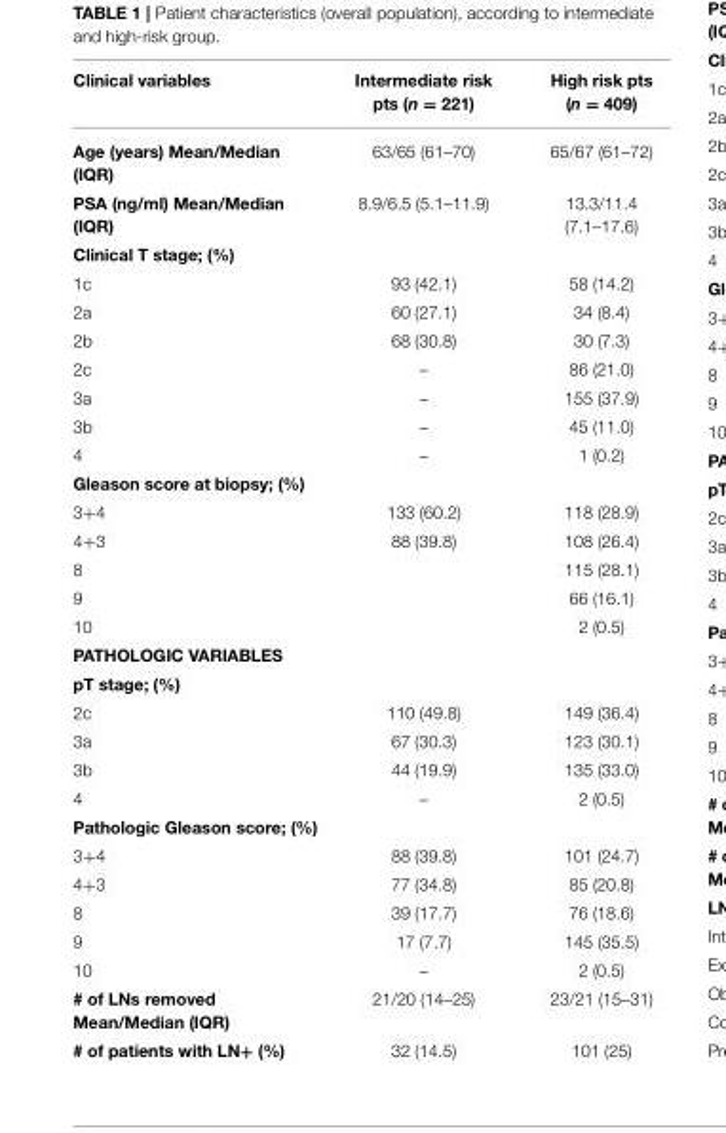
<table><thead><tr><td>Clinical variables</td><td>Intermediate risk pts (n = 221)</td><td>High risk pts (n = 409)</td></tr></thead><tbody><tr><td>Age (years) Mean/Median (IQR)</td><td>63/65 (61–70)</td><td>65/67 (61–72)</td></tr><tr><td>PSA (ng/ml) Mean/Median (IQR)</td><td>8.9/6.5 (5.1–11.9)</td><td>13.3/11.4 (7.1–17.6)</td></tr><tr><td colspan="3">Clinical T stage; (%)</td></tr><tr><td>1c</td><td>93 (42.1)</td><td>58 (14.2)</td></tr><tr><td>2a</td><td>60 (27.1)</td><td>34 (8.4)</td></tr><tr><td>2b</td><td>68 (30.8)</td><td>30 (7.3)</td></tr><tr><td>2c</td><td>–</td><td>86 (21.0)</td></tr><tr><td>3a</td><td>–</td><td>155 (37.9)</td></tr><tr><td>3b</td><td>–</td><td>45 (11.0)</td></tr><tr><td>4</td><td>–</td><td>1 (0.2)</td></tr><tr><td colspan="3">Gleason score at biopsy; (%)</td></tr><tr><td>3+4</td><td>133 (60.2)</td><td>118 (28.9)</td></tr><tr><td>4+3</td><td>88 (39.8)</td><td>108 (26.4)</td></tr><tr><td>8</td><td></td><td>115 (28.1)</td></tr><tr><td>9</td><td></td><td>66 (16.1)</td></tr><tr><td>10</td><td></td><td>2 (0.5)</td></tr><tr><td colspan="3">PATHOLOGIC VARIABLES</td></tr><tr><td colspan="3">pT stage; (%)</td></tr><tr><td>2c</td><td>110 (49.8)</td><td>149 (36.4)</td></tr><tr><td>3a</td><td>67 (30.3)</td><td>123 (30.1)</td></tr><tr><td>3b</td><td>44 (19.9)</td><td>135 (33.0)</td></tr><tr><td>4</td><td>–</td><td>2 (0.5)</td></tr><tr><td colspan="3">Pathologic Gleason score; (%)</td></tr><tr><td>3+4</td><td>88 (39.8)</td><td>101 (24.7)</td></tr><tr><td>4+3</td><td>77 (34.8)</td><td>85 (20.8)</td></tr><tr><td>8</td><td>39 (17.7)</td><td>76 (18.6)</td></tr><tr><td>9</td><td>17 (7.7)</td><td>145 (35.5)</td></tr><tr><td>10</td><td>–</td><td>2 (0.5)</td></tr><tr><td># of LNs removed Mean/Median (IQR)</td><td>21/20 (14–25)</td><td>23/21 (15–31)</td></tr><tr><td># of patients with LN+ (%)</td><td>32 (14.5)</td><td>101 (25)</td></tr></tbody></table>